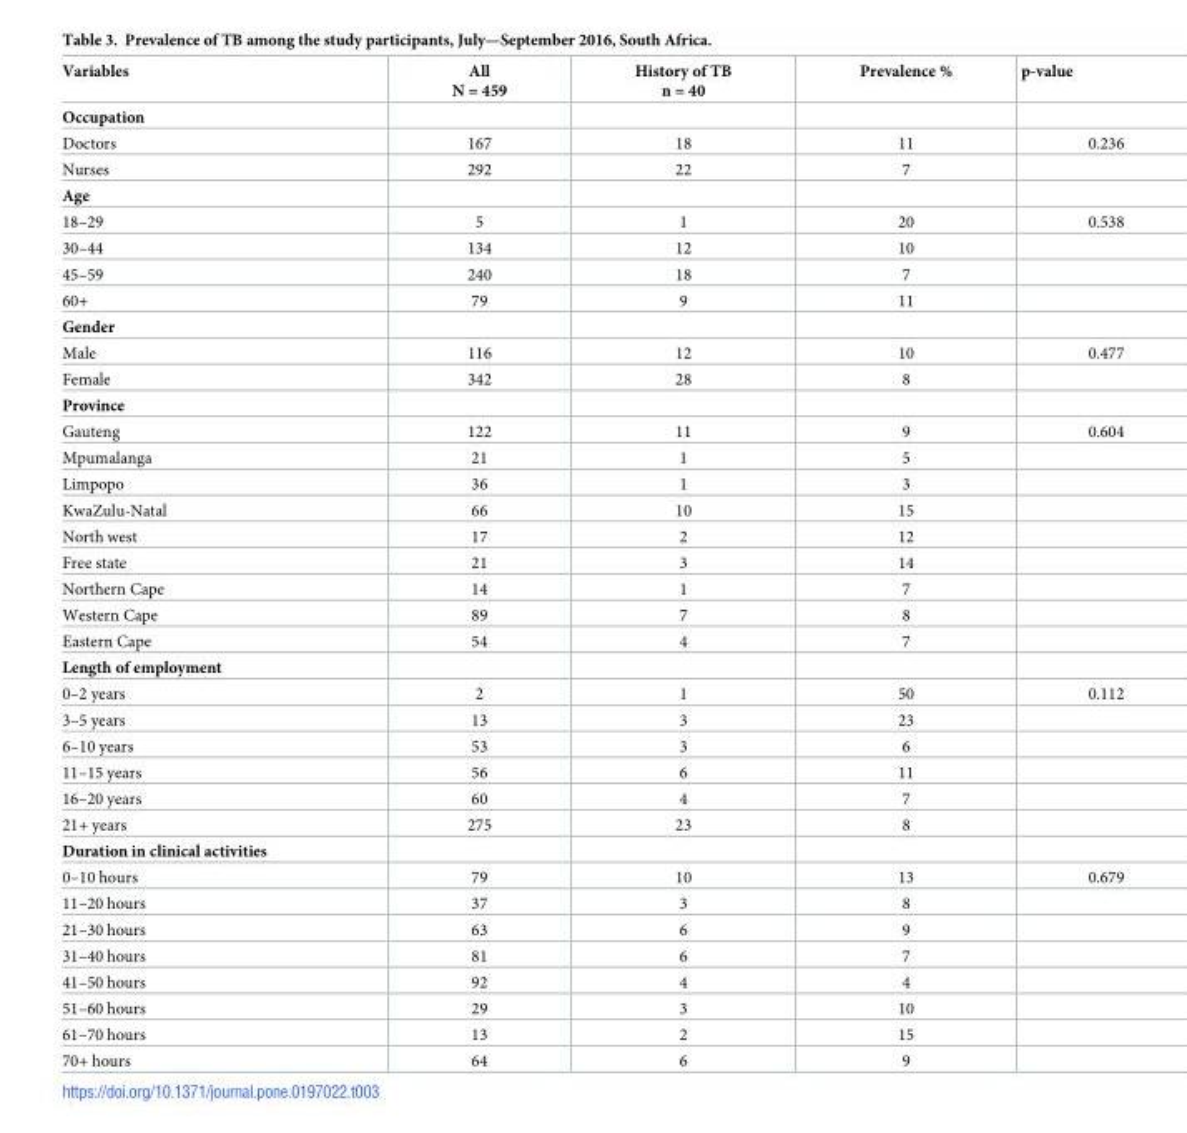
<table><thead><tr><td>Variables</td><td>All N = 459</td><td>History of TB n = 40</td><td>Prevalence %</td><td>p-value</td></tr></thead><tbody><tr><td colspan="5">Occupation</td></tr><tr><td>Doctors</td><td>167</td><td>18</td><td>11</td><td>0.236</td></tr><tr><td>Nurses</td><td>292</td><td>22</td><td>7</td><td></td></tr><tr><td colspan="5">Age</td></tr><tr><td>18–29</td><td>5</td><td>1</td><td>20</td><td>0.538</td></tr><tr><td>30–44</td><td>134</td><td>12</td><td>10</td><td></td></tr><tr><td>45–59</td><td>240</td><td>18</td><td>7</td><td></td></tr><tr><td>60+</td><td>79</td><td>9</td><td>11</td><td></td></tr><tr><td colspan="5">Gender</td></tr><tr><td>Male</td><td>116</td><td>12</td><td>10</td><td>0.477</td></tr><tr><td>Female</td><td>342</td><td>28</td><td>8</td><td></td></tr><tr><td colspan="5">Province</td></tr><tr><td>Gauteng</td><td>122</td><td>11</td><td>9</td><td>0.604</td></tr><tr><td>Mpumalanga</td><td>21</td><td>1</td><td>5</td><td></td></tr><tr><td>Limpopo</td><td>36</td><td>1</td><td>3</td><td></td></tr><tr><td>KwaZulu-Natal</td><td>66</td><td>10</td><td>15</td><td></td></tr><tr><td>North west</td><td>17</td><td>2</td><td>12</td><td></td></tr><tr><td>Free state</td><td>21</td><td>3</td><td>14</td><td></td></tr><tr><td>Northern Cape</td><td>14</td><td>1</td><td>7</td><td></td></tr><tr><td>Western Cape</td><td>89</td><td>7</td><td>8</td><td></td></tr><tr><td>Eastern Cape</td><td>54</td><td>4</td><td>7</td><td></td></tr><tr><td colspan="5">Length of employment</td></tr><tr><td>0–2 years</td><td>2</td><td>1</td><td>50</td><td>0.112</td></tr><tr><td>3–5 years</td><td>13</td><td>3</td><td>23</td><td></td></tr><tr><td>6–10 years</td><td>53</td><td>3</td><td>6</td><td></td></tr><tr><td>11–15 years</td><td>56</td><td>6</td><td>11</td><td></td></tr><tr><td>16–20 years</td><td>60</td><td>4</td><td>7</td><td></td></tr><tr><td>21+ years</td><td>275</td><td>23</td><td>8</td><td></td></tr><tr><td colspan="5">Duration in clinical activities</td></tr><tr><td>0–10 hours</td><td>79</td><td>10</td><td>13</td><td>0.679</td></tr><tr><td>11–20 hours</td><td>37</td><td>3</td><td>8</td><td></td></tr><tr><td>21–30 hours</td><td>63</td><td>6</td><td>9</td><td></td></tr><tr><td>31–40 hours</td><td>81</td><td>6</td><td>7</td><td></td></tr><tr><td>41–50 hours</td><td>92</td><td>4</td><td>4</td><td></td></tr><tr><td>51–60 hours</td><td>29</td><td>3</td><td>10</td><td></td></tr><tr><td>61–70 hours</td><td>13</td><td>2</td><td>15</td><td></td></tr><tr><td>70+ hours</td><td>64</td><td>6</td><td>9</td><td></td></tr></tbody></table>